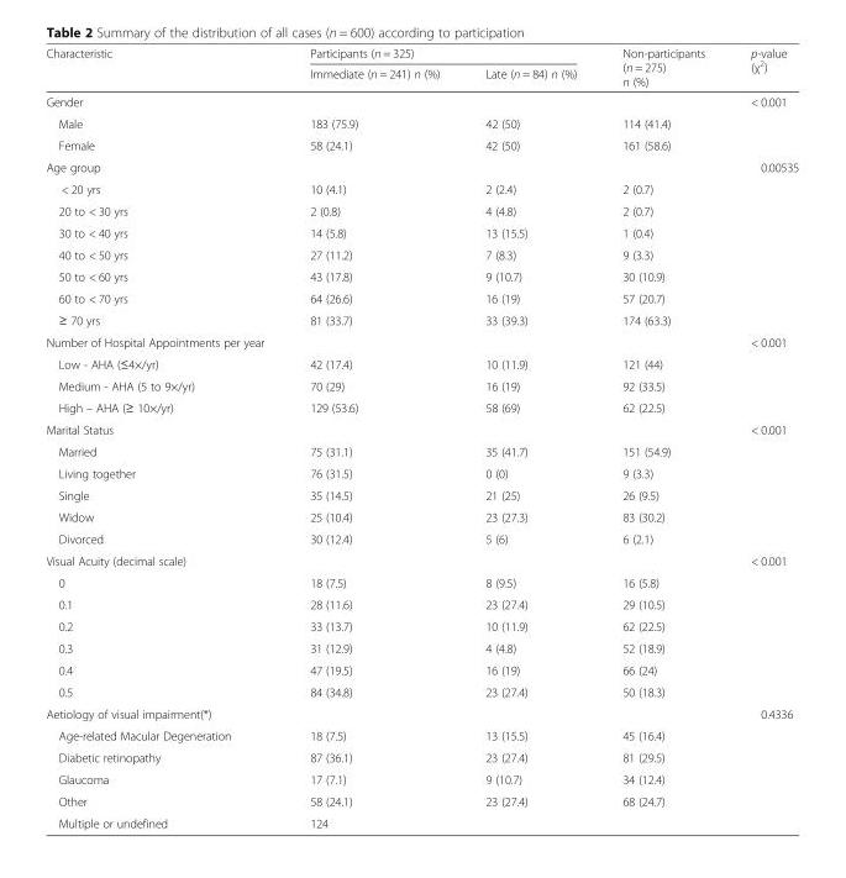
<table><thead><tr><td rowspan="2">Characteristic</td><td colspan="2">Participants (n = 325)</td><td rowspan="2">Non-participants (n = 275) n (%)</td><td rowspan="2">p-value (χ<sup>2</sup>)</td></tr><tr><td>Immediate (n = 241) n (%)</td><td>Late (n = 84) n (%)</td></tr></thead><tbody><tr><td>Gender</td><td></td><td></td><td></td><td>&lt; 0.001</td></tr><tr><td>Male</td><td>183 (75.9)</td><td>42 (50)</td><td>114 (41.4)</td><td></td></tr><tr><td>Female</td><td>58 (24.1)</td><td>42 (50)</td><td>161 (58.6)</td><td></td></tr><tr><td>Age group</td><td></td><td></td><td></td><td>0.00535</td></tr><tr><td>&lt; 20 yrs</td><td>10 (4.1)</td><td>2 (2.4)</td><td>2 (0.7)</td><td></td></tr><tr><td>20 to &lt; 30 yrs</td><td>2 (0.8)</td><td>4 (4.8)</td><td>2 (0.7)</td><td></td></tr><tr><td>30 to &lt; 40 yrs</td><td>14 (5.8)</td><td>13 (15.5)</td><td>1 (0.4)</td><td></td></tr><tr><td>40 to &lt; 50 yrs</td><td>27 (11.2)</td><td>7 (8.3)</td><td>9 (3.3)</td><td></td></tr><tr><td>50 to &lt; 60 yrs</td><td>43 (17.8)</td><td>9 (10.7)</td><td>30 (10.9)</td><td></td></tr><tr><td>60 to &lt; 70 yrs</td><td>64 (26.6)</td><td>16 (19)</td><td>57 (20.7)</td><td></td></tr><tr><td>≥ 70 yrs</td><td>81 (33.7)</td><td>33 (39.3)</td><td>174 (63.3)</td><td></td></tr><tr><td>Number of Hospital Appointments per year</td><td></td><td></td><td></td><td>&lt; 0.001</td></tr><tr><td>Low - AHA (≤4×/yr)</td><td>42 (17.4)</td><td>10 (11.9)</td><td>121 (44)</td><td></td></tr><tr><td>Medium - AHA (5 to 9×/yr)</td><td>70 (29)</td><td>16 (19)</td><td>92 (33.5)</td><td></td></tr><tr><td>High – AHA (≥ 10×/yr)</td><td>129 (53.6)</td><td>58 (69)</td><td>62 (22.5)</td><td></td></tr><tr><td>Marital Status</td><td></td><td></td><td></td><td>&lt; 0.001</td></tr><tr><td>Married</td><td>75 (31.1)</td><td>35 (41.7)</td><td>151 (54.9)</td><td></td></tr><tr><td>Living together</td><td>76 (31.5)</td><td>0 (0)</td><td>9 (3.3)</td><td></td></tr><tr><td>Single</td><td>35 (14.5)</td><td>21 (25)</td><td>26 (9.5)</td><td></td></tr><tr><td>Widow</td><td>25 (10.4)</td><td>23 (27.3)</td><td>83 (30.2)</td><td></td></tr><tr><td>Divorced</td><td>30 (12.4)</td><td>5 (6)</td><td>6 (2.1)</td><td></td></tr><tr><td>Visual Acuity (decimal scale)</td><td></td><td></td><td></td><td>&lt; 0.001</td></tr><tr><td>0</td><td>18 (7.5)</td><td>8 (9.5)</td><td>16 (5.8)</td><td></td></tr><tr><td>0.1</td><td>28 (11.6)</td><td>23 (27.4)</td><td>29 (10.5)</td><td></td></tr><tr><td>0.2</td><td>33 (13.7)</td><td>10 (11.9)</td><td>62 (22.5)</td><td></td></tr><tr><td>0.3</td><td>31 (12.9)</td><td>4 (4.8)</td><td>52 (18.9)</td><td></td></tr><tr><td>0.4</td><td>47 (19.5)</td><td>16 (19)</td><td>66 (24)</td><td></td></tr><tr><td>0.5</td><td>84 (34.8)</td><td>23 (27.4)</td><td>50 (18.3)</td><td></td></tr><tr><td>Aetiology of visual impairment(*)</td><td></td><td></td><td></td><td>0.4336</td></tr><tr><td>Age-related Macular Degeneration</td><td>18 (7.5)</td><td>13 (15.5)</td><td>45 (16.4)</td><td></td></tr><tr><td>Diabetic retinopathy</td><td>87 (36.1)</td><td>23 (27.4)</td><td>81 (29.5)</td><td></td></tr><tr><td>Glaucoma</td><td>17 (7.1)</td><td>9 (10.7)</td><td>34 (12.4)</td><td></td></tr><tr><td>Other</td><td>58 (24.1)</td><td>23 (27.4)</td><td>68 (24.7)</td><td></td></tr><tr><td>Multiple or undefined</td><td>124</td><td></td><td></td><td></td></tr></tbody></table>